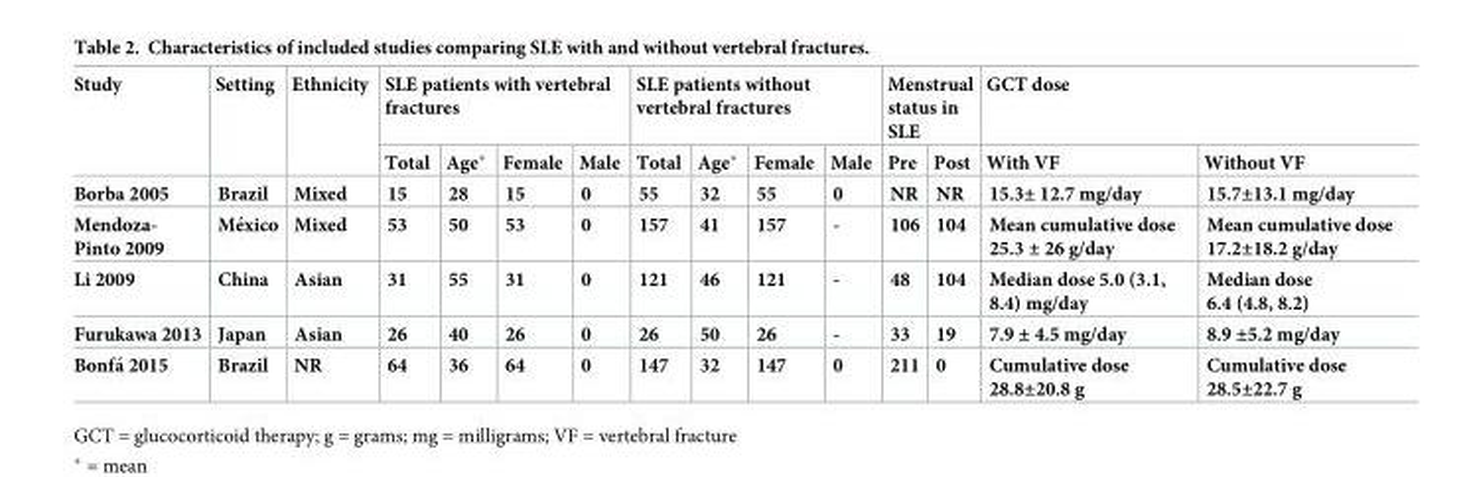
<table><thead><tr><td rowspan="2">Study</td><td rowspan="2">Setting</td><td rowspan="2">Ethnicity</td><td colspan="4">SLE patients with vertebral fractures</td><td colspan="4">SLE patients without vertebral fractures</td><td colspan="2">Menstrual status in SLE</td><td colspan="2">GCT dose</td></tr><tr><td>Total</td><td>Age*</td><td>Female</td><td>Male</td><td>Total</td><td>Age*</td><td>Female</td><td>Male</td><td>Pre</td><td>Post</td><td>With VF</td><td>Without VF</td></tr></thead><tbody><tr><td>Borba 2005</td><td>Brazil</td><td>Mixed</td><td>15</td><td>28</td><td>15</td><td>0</td><td>55</td><td>32</td><td>55</td><td>0</td><td>NR</td><td>NR</td><td>15.3± 12.7 mg/day</td><td>15.7±13.1 mg/day</td></tr><tr><td>Mendoza- Pinto 2009</td><td>Me´xico</td><td>Mixed</td><td>53</td><td>50</td><td>53</td><td>0</td><td>157</td><td>41</td><td>157</td><td>-</td><td>106</td><td>104</td><td>Mean cumulative dose 25.3 ± 26 g/day</td><td>Mean cumulative dose 17.2±18.2 g/day</td></tr><tr><td>Li 2009</td><td>China</td><td>Asian</td><td>31</td><td>55</td><td>31</td><td>0</td><td>121</td><td>46</td><td>121</td><td>-</td><td>48</td><td>104</td><td>Median dose 5.0 (3.1, 8.4) mg/day</td><td>Median dose 6.4 (4.8, 8.2)</td></tr><tr><td>Furukawa 2013</td><td>Japan</td><td>Asian</td><td>26</td><td>40</td><td>26</td><td>0</td><td>26</td><td>50</td><td>26</td><td>-</td><td>33</td><td>19</td><td>7.9 ± 4.5 mg/day</td><td>8.9 ±5.2 mg/day</td></tr><tr><td>Bonfa´ 2015</td><td>Brazil</td><td>NR</td><td>64</td><td>36</td><td>64</td><td>0</td><td>147</td><td>32</td><td>147</td><td>0</td><td>211</td><td>0</td><td>Cumulative dose 28.8±20.8 g</td><td>Cumulative dose 28.5±22.7 g</td></tr></tbody></table>